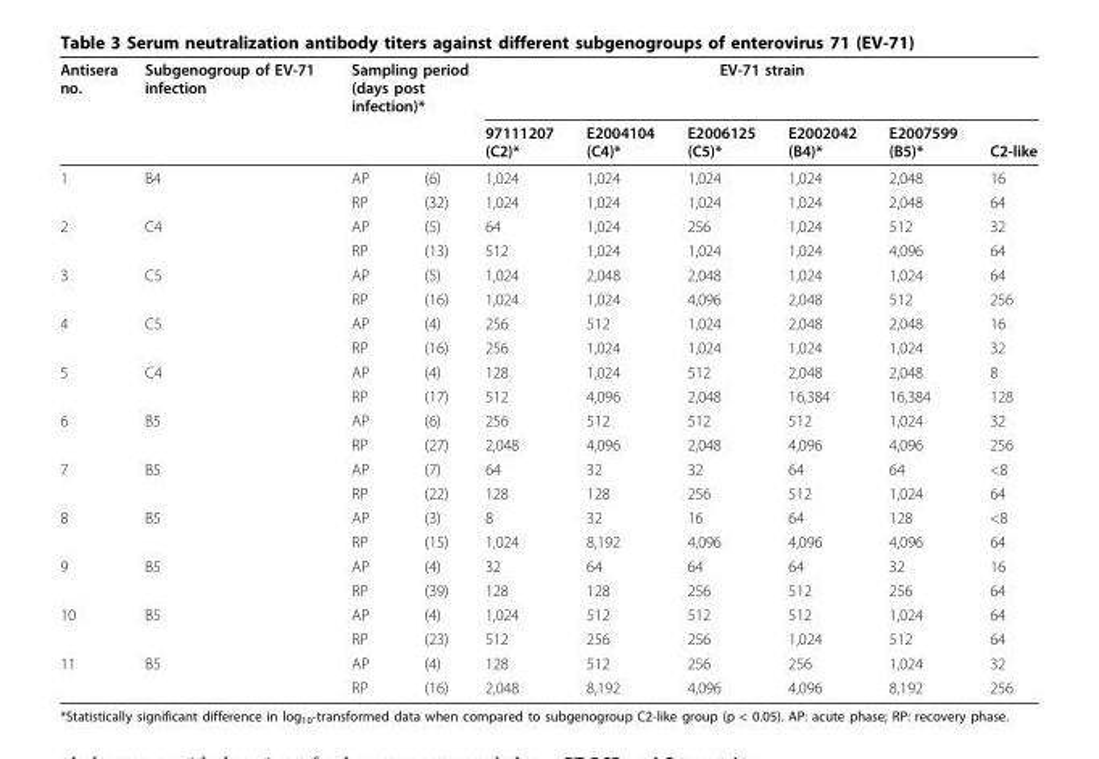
<table><thead><tr><td rowspan="2">Antisera no.</td><td rowspan="2">Subgenogroup of EV-71 infection</td><td colspan="2">Sampling period (days post infection)*</td><td colspan="6">EV-71 strain</td></tr><tr><td></td><td></td><td>97111207 (C2)*</td><td>E2004104 (C4)*</td><td>E2006125 (C5)*</td><td>E2002042 (B4)*</td><td>E2007599 (B5)*</td><td>C2-like</td></tr></thead><tbody><tr><td rowspan="2">1</td><td>B4</td><td>AP</td><td>(6)</td><td>1,024</td><td>1,024</td><td>1,024</td><td>1,024</td><td>2,048</td><td>16</td></tr><tr><td></td><td>RP</td><td>(32)</td><td>1,024</td><td>1,024</td><td>1,024</td><td>1,024</td><td>2,048</td><td>64</td></tr><tr><td rowspan="2">2</td><td>C4</td><td>AP</td><td>(5)</td><td>64</td><td>1,024</td><td>256</td><td>1,024</td><td>512</td><td>32</td></tr><tr><td></td><td>RP</td><td>(13)</td><td>512</td><td>1,024</td><td>1,024</td><td>1,024</td><td>4,096</td><td>64</td></tr><tr><td rowspan="2">3</td><td>C5</td><td>AP</td><td>(5)</td><td>1,024</td><td>2,048</td><td>2,048</td><td>1,024</td><td>1,024</td><td>64</td></tr><tr><td></td><td>RP</td><td>(16)</td><td>1,024</td><td>1,024</td><td>4,096</td><td>2,048</td><td>512</td><td>256</td></tr><tr><td rowspan="2">4</td><td>C5</td><td>AP</td><td>(4)</td><td>256</td><td>512</td><td>1,024</td><td>2,048</td><td>2,048</td><td>16</td></tr><tr><td></td><td>RP</td><td>(16)</td><td>256</td><td>1,024</td><td>1,024</td><td>1,024</td><td>1,024</td><td>32</td></tr><tr><td rowspan="2">5</td><td>C4</td><td>AP</td><td>(4)</td><td>128</td><td>1,024</td><td>512</td><td>2,048</td><td>2,048</td><td>8</td></tr><tr><td></td><td>RP</td><td>(17)</td><td>512</td><td>4,096</td><td>2,048</td><td>16,384</td><td>16,384</td><td>128</td></tr><tr><td rowspan="2">6</td><td>B5</td><td>AP</td><td>(6)</td><td>256</td><td>512</td><td>512</td><td>512</td><td>1,024</td><td>32</td></tr><tr><td></td><td>RP</td><td>(27)</td><td>2,048</td><td>4,096</td><td>2,048</td><td>4,096</td><td>4,096</td><td>256</td></tr><tr><td rowspan="2">7</td><td>B5</td><td>AP</td><td>(7)</td><td>64</td><td>32</td><td>32</td><td>64</td><td>64</td><td>&lt;8</td></tr><tr><td></td><td>RP</td><td>(22)</td><td>128</td><td>128</td><td>256</td><td>512</td><td>1,024</td><td>64</td></tr><tr><td rowspan="2">8</td><td>B5</td><td>AP</td><td>(3)</td><td>8</td><td>32</td><td>16</td><td>64</td><td>128</td><td>&lt;8</td></tr><tr><td></td><td>RP</td><td>(15)</td><td>1,024</td><td>8,192</td><td>4,096</td><td>4,096</td><td>4,096</td><td>64</td></tr><tr><td rowspan="2">9</td><td>B5</td><td>AP</td><td>(4)</td><td>32</td><td>64</td><td>64</td><td>64</td><td>32</td><td>16</td></tr><tr><td></td><td>RP</td><td>(39)</td><td>128</td><td>128</td><td>256</td><td>512</td><td>256</td><td>64</td></tr><tr><td rowspan="2">10</td><td>B5</td><td>AP</td><td>(4)</td><td>1,024</td><td>512</td><td>512</td><td>512</td><td>1,024</td><td>64</td></tr><tr><td></td><td>RP</td><td>(23)</td><td>512</td><td>256</td><td>256</td><td>1,024</td><td>512</td><td>64</td></tr><tr><td rowspan="2">11</td><td>B5</td><td>AP</td><td>(4)</td><td>128</td><td>512</td><td>256</td><td>256</td><td>1,024</td><td>32</td></tr><tr><td></td><td>RP</td><td>(16)</td><td>2,048</td><td>8,192</td><td>4,096</td><td>4,096</td><td>8,192</td><td>256</td></tr></tbody></table>